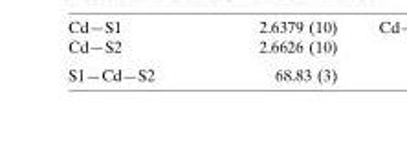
<table><tbody><tr><td>S1—Cd—S2</td><td>68.83 (3)</td></tr></tbody></table>